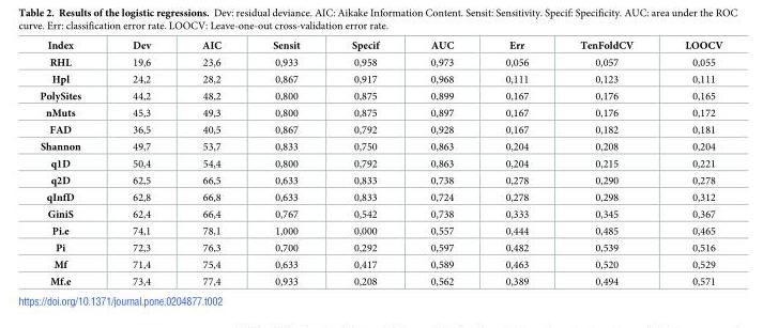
<table><thead><tr><td>Index</td><td>Dev</td><td>AIC</td><td>Sensit</td><td>Specif</td><td>AUC</td><td>Err</td><td>TenFoldCV</td><td>LOOCV</td></tr></thead><tbody><tr><td>RHL</td><td>19,6</td><td>23,6</td><td>0,933</td><td>0,958</td><td>0,973</td><td>0,056</td><td>0,057</td><td>0,055</td></tr><tr><td>Hpl</td><td>24,2</td><td>28,2</td><td>0,867</td><td>0,917</td><td>0,968</td><td>0,111</td><td>0,123</td><td>0,111</td></tr><tr><td>PolySites</td><td>44,2</td><td>48,2</td><td>0,800</td><td>0,875</td><td>0,899</td><td>0,167</td><td>0,176</td><td>0,165</td></tr><tr><td>nMuts</td><td>45,3</td><td>49,3</td><td>0,800</td><td>0,875</td><td>0,897</td><td>0,167</td><td>0,176</td><td>0,172</td></tr><tr><td>FAD</td><td>36,5</td><td>40,5</td><td>0,867</td><td>0,792</td><td>0,928</td><td>0,167</td><td>0,182</td><td>0,181</td></tr><tr><td>Shannon</td><td>49,7</td><td>53,7</td><td>0,833</td><td>0,750</td><td>0,863</td><td>0,204</td><td>0,208</td><td>0,204</td></tr><tr><td>q1D</td><td>50,4</td><td>54,4</td><td>0,800</td><td>0,792</td><td>0,863</td><td>0,204</td><td>0,215</td><td>0,221</td></tr><tr><td>q2D</td><td>62,5</td><td>66,5</td><td>0,633</td><td>0,833</td><td>0,738</td><td>0,278</td><td>0,290</td><td>0,278</td></tr><tr><td>qInfD</td><td>62,8</td><td>66,8</td><td>0,633</td><td>0,833</td><td>0,724</td><td>0,278</td><td>0,298</td><td>0,312</td></tr><tr><td>GiniS</td><td>62,4</td><td>66,4</td><td>0,767</td><td>0,542</td><td>0,738</td><td>0,333</td><td>0,345</td><td>0,367</td></tr><tr><td>Pi.e</td><td>74,1</td><td>78,1</td><td>1,000</td><td>0,000</td><td>0,557</td><td>0,444</td><td>0,485</td><td>0,465</td></tr><tr><td>Pi</td><td>72,3</td><td>76,3</td><td>0,700</td><td>0,292</td><td>0,597</td><td>0,482</td><td>0,539</td><td>0,516</td></tr><tr><td>Mf</td><td>71,4</td><td>75,4</td><td>0,633</td><td>0,417</td><td>0,589</td><td>0,463</td><td>0,520</td><td>0,529</td></tr><tr><td>Mf.e</td><td>73,4</td><td>77,4</td><td>0,933</td><td>0,208</td><td>0,562</td><td>0,389</td><td>0,494</td><td>0,571</td></tr></tbody></table>